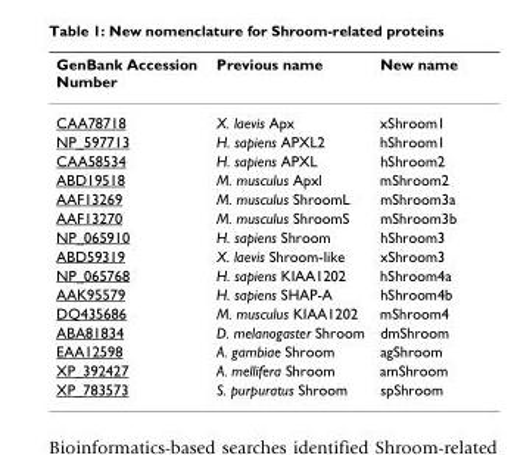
<table><thead><tr><td>GenBank Accession Number</td><td>Previous name</td><td>New name</td></tr></thead><tbody><tr><td>CAA78718</td><td>X. laevis Apx</td><td>xShroom1</td></tr><tr><td>NP_597713</td><td>H. sapiens APXL2</td><td>hShroom1</td></tr><tr><td>CAA58534</td><td>H. sapiens APXL</td><td>hShroom2</td></tr><tr><td>ABD19518</td><td>M. musculus Apxl</td><td>mShroom2</td></tr><tr><td>AAF13269</td><td>M. musculus ShroomL</td><td>mShroom3a</td></tr><tr><td>AAF13270</td><td>M. musculus ShroomS</td><td>mShroom3b</td></tr><tr><td>NP_065910</td><td>H. sapiens Shroom</td><td>hShroom3</td></tr><tr><td>ABD59319</td><td>X. laevis Shroom-like</td><td>xShroom3</td></tr><tr><td>NP_065768</td><td>H. sapiens KIAA1202</td><td>hShroom4a</td></tr><tr><td>AAK95579</td><td>H. sapiens SHAP-A</td><td>hShroom4b</td></tr><tr><td>DQ435686</td><td>M. musculus KIAA1202</td><td>mShroom4</td></tr><tr><td>ABA81834</td><td>D. melanogaster Shroom</td><td>dmShroom</td></tr><tr><td>EAA12598</td><td>A. gambiae Shroom</td><td>agShroom</td></tr><tr><td>XP_392427</td><td>A. mellifera Shroom</td><td>amShroom</td></tr><tr><td>XP_783573</td><td>S. purpuratus Shroom</td><td>spShroom</td></tr></tbody></table>